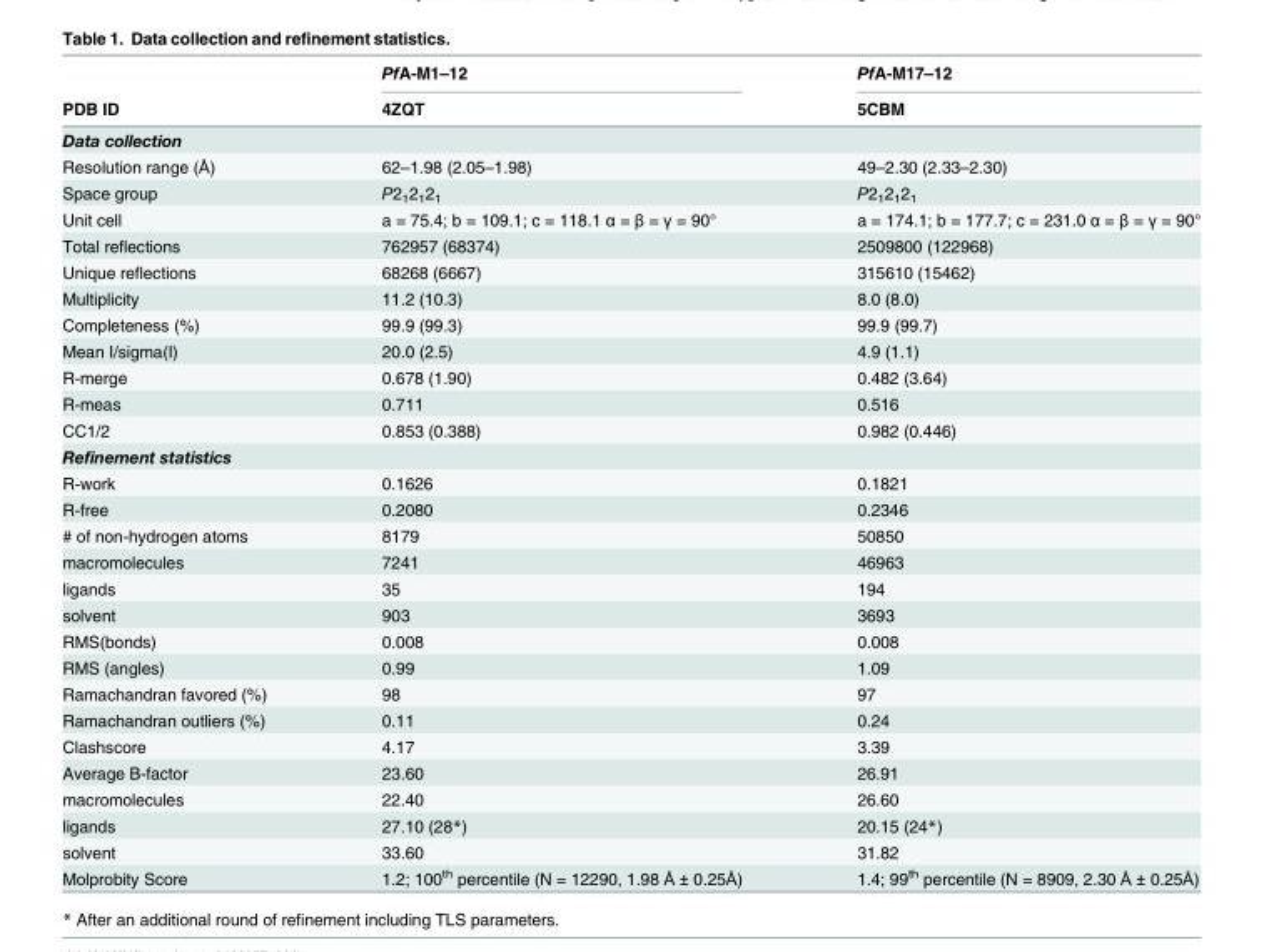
<table><thead><tr><td rowspan="2">PDB ID</td><td rowspan="2">PfA-M1–12 4ZQT</td><td rowspan="2">PfA-M17–12 5CBM</td></tr><tr></tr></thead><tbody><tr><td colspan="3">Data collection</td></tr><tr><td>Resolution range (Å)</td><td>62–1.98 (2.05–1.98)</td><td>49–2.30 (2.33–2.30)</td></tr><tr><td>Space group</td><td>P2<sub>1</sub>2<sub>1</sub>2<sub>1</sub></td><td>P2<sub>1</sub>2<sub>1</sub>2<sub>1</sub></td></tr><tr><td>Unit cell</td><td>a = 75.4; b = 109.1; c = 118.1 α = β = γ = 90°</td><td>a = 174.1; b = 177.7; c = 231.0 α = β = γ = 90°</td></tr><tr><td>Total reflections</td><td>762957 (68374)</td><td>2509800 (122968)</td></tr><tr><td>Unique reflections</td><td>68268 (6667)</td><td>315610 (15462)</td></tr><tr><td>Multiplicity</td><td>11.2 (10.3)</td><td>8.0 (8.0)</td></tr><tr><td>Completeness (%)</td><td>99.9 (99.3)</td><td>99.9 (99.7)</td></tr><tr><td>Mean I/sigma(I)</td><td>20.0 (2.5)</td><td>4.9 (1.1)</td></tr><tr><td>R-merge</td><td>0.678 (1.90)</td><td>0.482 (3.64)</td></tr><tr><td>R-meas</td><td>0.711</td><td>0.516</td></tr><tr><td>CC1/2</td><td>0.853 (0.388)</td><td>0.982 (0.446)</td></tr><tr><td colspan="3">Refinement statistics</td></tr><tr><td>R-work</td><td>0.1626</td><td>0.1821</td></tr><tr><td>R-free</td><td>0.2080</td><td>0.2346</td></tr><tr><td># of non-hydrogen atoms</td><td>8179</td><td>50850</td></tr><tr><td>macromolecules</td><td>7241</td><td>46963</td></tr><tr><td>ligands</td><td>35</td><td>194</td></tr><tr><td>solvent</td><td>903</td><td>3693</td></tr><tr><td>RMS(bonds)</td><td>0.008</td><td>0.008</td></tr><tr><td>RMS (angles)</td><td>0.99</td><td>1.09</td></tr><tr><td>Ramachandran favored (%)</td><td>98</td><td>97</td></tr><tr><td>Ramachandran outliers (%)</td><td>0.11</td><td>0.24</td></tr><tr><td>Clashscore</td><td>4.17</td><td>3.39</td></tr><tr><td>Average B-factor</td><td>23.60</td><td>26.91</td></tr><tr><td>macromolecules</td><td>22.40</td><td>26.60</td></tr><tr><td>ligands</td><td>27.10 (28*)</td><td>20.15 (24*)</td></tr><tr><td>solvent</td><td>33.60</td><td>31.82</td></tr><tr><td>Molprobity Score</td><td>1.2; 100<sup>th</sup> percentile (N = 12290, 1.98 Å ± 0.25Å)</td><td>1.4; 99<sup>th</sup> percentile (N = 8909, 2.30 Å ± 0.25Å)</td></tr></tbody></table>